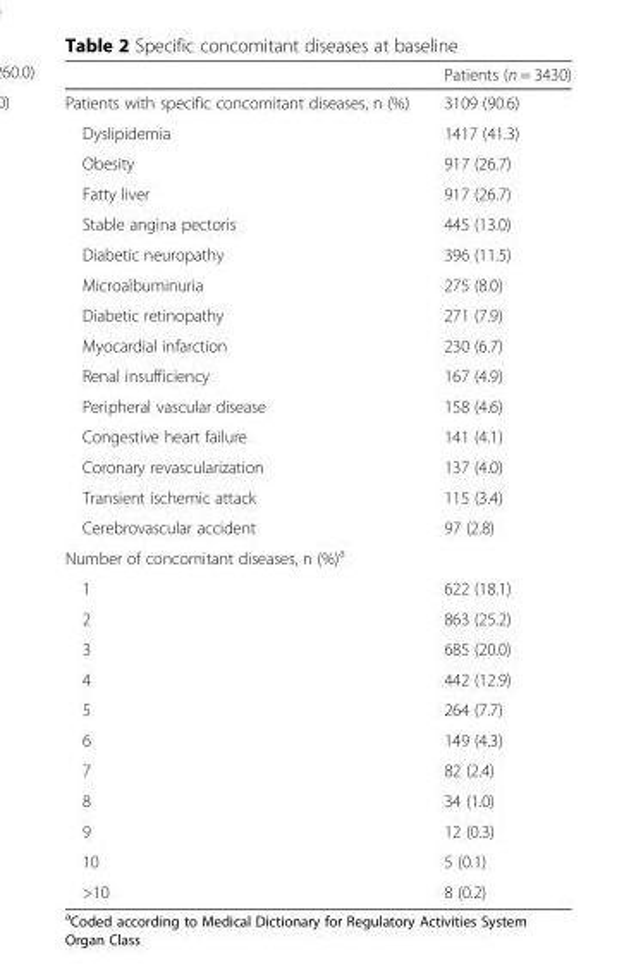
<table><thead><tr><td></td><td>Patients (n = 3430)</td></tr></thead><tbody><tr><td>Patients with specific concomitant diseases, n (%)</td><td>3109 (90.6)</td></tr><tr><td>Dyslipidemia</td><td>1417 (41.3)</td></tr><tr><td>Obesity</td><td>917 (26.7)</td></tr><tr><td>Fatty liver</td><td>917 (26.7)</td></tr><tr><td>Stable angina pectoris</td><td>445 (13.0)</td></tr><tr><td>Diabetic neuropathy</td><td>396 (11.5)</td></tr><tr><td>Microalbuminuria</td><td>275 (8.0)</td></tr><tr><td>Diabetic retinopathy</td><td>271 (7.9)</td></tr><tr><td>Myocardial infarction</td><td>230 (6.7)</td></tr><tr><td>Renal insufficiency</td><td>167 (4.9)</td></tr><tr><td>Peripheral vascular disease</td><td>158 (4.6)</td></tr><tr><td>Congestive heart failure</td><td>141 (4.1)</td></tr><tr><td>Coronary revascularization</td><td>137 (4.0)</td></tr><tr><td>Transient ischemic attack</td><td>115 (3.4)</td></tr><tr><td>Cerebrovascular accident</td><td>97 (2.8)</td></tr><tr><td colspan="2">Number of concomitant diseases, n (%)<sup>a</sup></td></tr><tr><td>1</td><td>622 (18.1)</td></tr><tr><td>2</td><td>863 (25.2)</td></tr><tr><td>3</td><td>685 (20.0)</td></tr><tr><td>4</td><td>442 (12.9)</td></tr><tr><td>5</td><td>264 (7.7)</td></tr><tr><td>6</td><td>149 (4.3)</td></tr><tr><td>7</td><td>82 (2.4)</td></tr><tr><td>8</td><td>34 (1.0)</td></tr><tr><td>9</td><td>12 (0.3)</td></tr><tr><td>10</td><td>5 (0.1)</td></tr><tr><td>&gt;10</td><td>8 (0.2)</td></tr></tbody></table>